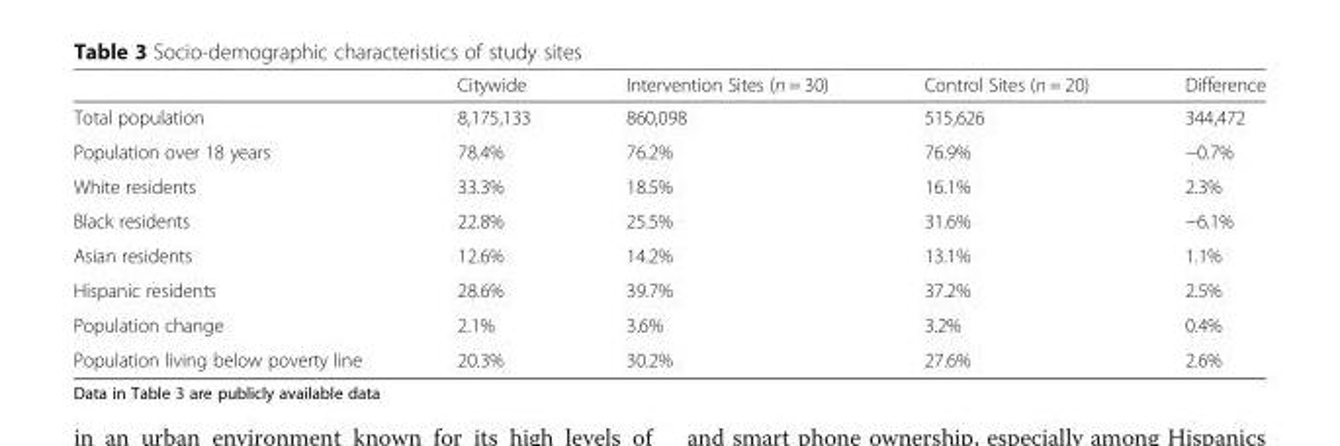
<table><thead><tr><td></td><td>Citywide</td><td>Intervention Sites (n = 30)</td><td>Control Sites (n = 20)</td><td>Difference</td></tr></thead><tbody><tr><td>Total population</td><td>8,175,133</td><td>860,098</td><td>515,626</td><td>344,472</td></tr><tr><td>Population over 18 years</td><td>78.4%</td><td>76.2%</td><td>76.9%</td><td>−0.7%</td></tr><tr><td>White residents</td><td>33.3%</td><td>18.5%</td><td>16.1%</td><td>2.3%</td></tr><tr><td>Black residents</td><td>22.8%</td><td>25.5%</td><td>31.6%</td><td>−6.1%</td></tr><tr><td>Asian residents</td><td>12.6%</td><td>14.2%</td><td>13.1%</td><td>1.1%</td></tr><tr><td>Hispanic residents</td><td>28.6%</td><td>39.7%</td><td>37.2%</td><td>2.5%</td></tr><tr><td>Population change</td><td>2.1%</td><td>3.6%</td><td>3.2%</td><td>0.4%</td></tr><tr><td>Population living below poverty line</td><td>20.3%</td><td>30.2%</td><td>27.6%</td><td>2.6%</td></tr></tbody></table>